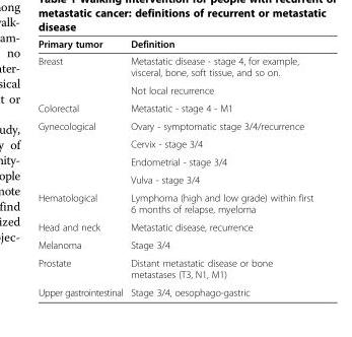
<table><thead><tr><td>Primary tumor</td><td>Definition</td></tr></thead><tbody><tr><td rowspan="2">Breast</td><td>Metastatic disease - stage 4, for example, visceral, bone, soft tissue, and so on.</td></tr><tr><td>Not local recurrence</td></tr><tr><td>Colorectal</td><td>Metastatic - stage 4 - M1</td></tr><tr><td rowspan="4">Gynecological</td><td>Ovary - symptomatic stage 3/4/recurrence</td></tr><tr><td>Cervix - stage 3/4</td></tr><tr><td>Endometrial - stage 3/4</td></tr><tr><td>Vulva - stage 3/4</td></tr><tr><td>Hematological</td><td>Lymphoma (high and low grade) within first 6 months of relapse, myeloma</td></tr><tr><td>Head and neck</td><td>Metastatic disease, recurrence</td></tr><tr><td>Melanoma</td><td>Stage 3/4</td></tr><tr><td>Prostate</td><td>Distant metastatic disease or bone metastases (T3, N1, M1)</td></tr><tr><td>Upper gastrointestinal</td><td>Stage 3/4, oesophago-gastric</td></tr></tbody></table>